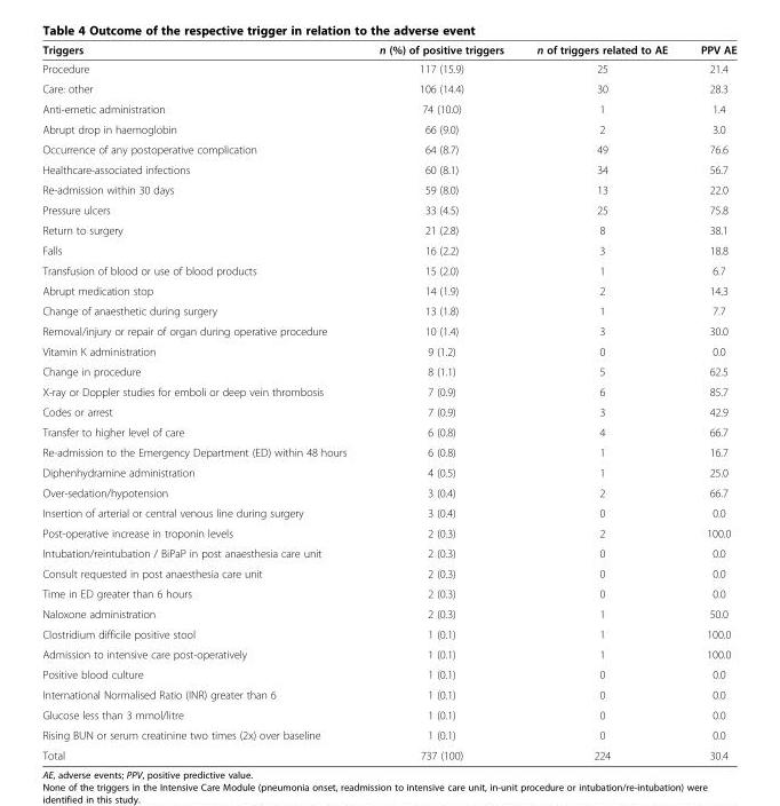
<table><thead><tr><td>Triggers</td><td>n (%) of positive triggers</td><td>n of triggers related to AE</td><td>PPV AE</td></tr></thead><tbody><tr><td>Procedure</td><td>117 (15.9)</td><td>25</td><td>21.4</td></tr><tr><td>Care: other</td><td>106 (14.4)</td><td>30</td><td>28.3</td></tr><tr><td>Anti-emetic administration</td><td>74 (10.0)</td><td>1</td><td>1.4</td></tr><tr><td>Abrupt drop in haemoglobin</td><td>66 (9.0)</td><td>2</td><td>3.0</td></tr><tr><td>Occurrence of any postoperative complication</td><td>64 (8.7)</td><td>49</td><td>76.6</td></tr><tr><td>Healthcare-associated infections</td><td>60 (8.1)</td><td>34</td><td>56.7</td></tr><tr><td>Re-admission within 30 days</td><td>59 (8.0)</td><td>13</td><td>22.0</td></tr><tr><td>Pressure ulcers</td><td>33 (4.5)</td><td>25</td><td>75.8</td></tr><tr><td>Return to surgery</td><td>21 (2.8)</td><td>8</td><td>38.1</td></tr><tr><td>Falls</td><td>16 (2.2)</td><td>3</td><td>18.8</td></tr><tr><td>Transfusion of blood or use of blood products</td><td>15 (2.0)</td><td>1</td><td>6.7</td></tr><tr><td>Abrupt medication stop</td><td>14 (1.9)</td><td>2</td><td>14.3</td></tr><tr><td>Change of anaesthetic during surgery</td><td>13 (1.8)</td><td>1</td><td>7.7</td></tr><tr><td>Removal/injury or repair of organ during operative procedure</td><td>10 (1.4)</td><td>3</td><td>30.0</td></tr><tr><td>Vitamin K administration</td><td>9 (1.2)</td><td>0</td><td>0.0</td></tr><tr><td>Change in procedure</td><td>8 (1.1)</td><td>5</td><td>62.5</td></tr><tr><td>X-ray or Doppler studies for emboli or deep vein thrombosis</td><td>7 (0.9)</td><td>6</td><td>85.7</td></tr><tr><td>Codes or arrest</td><td>7 (0.9)</td><td>3</td><td>42.9</td></tr><tr><td>Transfer to higher level of care</td><td>6 (0.8)</td><td>4</td><td>66.7</td></tr><tr><td>Re-admission to the Emergency Department (ED) within 48 hours</td><td>6 (0.8)</td><td>1</td><td>16.7</td></tr><tr><td>Diphenhydramine administration</td><td>4 (0.5)</td><td>1</td><td>25.0</td></tr><tr><td>Over-sedation/hypotension</td><td>3 (0.4)</td><td>2</td><td>66.7</td></tr><tr><td>Insertion of arterial or central venous line during surgery</td><td>3 (0.4)</td><td>0</td><td>0.0</td></tr><tr><td>Post-operative increase in troponin levels</td><td>2 (0.3)</td><td>2</td><td>100.0</td></tr><tr><td>Intubation/reintubation / BiPaP in post anaesthesia care unit</td><td>2 (0.3)</td><td>0</td><td>0.0</td></tr><tr><td>Consult requested in post anaesthesia care unit</td><td>2 (0.3)</td><td>0</td><td>0.0</td></tr><tr><td>Time in ED greater than 6 hours</td><td>2 (0.3)</td><td>0</td><td>0.0</td></tr><tr><td>Naloxone administration</td><td>2 (0.3)</td><td>1</td><td>50.0</td></tr><tr><td>Clostridium difficile positive stool</td><td>1 (0.1)</td><td>1</td><td>100.0</td></tr><tr><td>Admission to intensive care post-operatively</td><td>1 (0.1)</td><td>1</td><td>100.0</td></tr><tr><td>Positive blood culture</td><td>1 (0.1)</td><td>0</td><td>0.0</td></tr><tr><td>International Normalised Ratio (INR) greater than 6</td><td>1 (0.1)</td><td>0</td><td>0.0</td></tr><tr><td>Glucose less than 3 mmol/litre</td><td>1 (0.1)</td><td>0</td><td>0.0</td></tr><tr><td>Rising BUN or serum creatinine two times (2x) over baseline</td><td>1 (0.1)</td><td>0</td><td>0.0</td></tr><tr><td>Total</td><td>737 (100)</td><td>224</td><td>30.4</td></tr></tbody></table>